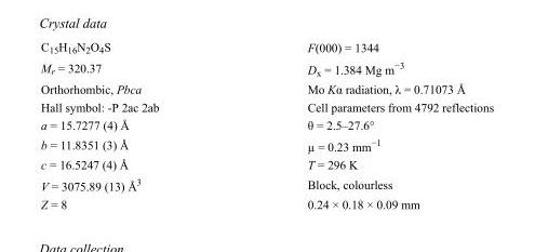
<table><tbody><tr><td>C<sub>15</sub>H<sub>16</sub>N<sub>2</sub>O<sub>4</sub>S</td><td>F(000) = 1344</td></tr><tr><td>M<sub>r</sub> = 320.37</td><td>D<sub>x</sub> = 1.384 Mg m<sup>−3</sup></td></tr><tr><td>Orthorhombic, Pbca</td><td>Mo Kα radiation, λ = 0.71073 Å</td></tr><tr><td>Hall symbol: -P 2ac 2ab</td><td>Cell parameters from 4792 reflections</td></tr><tr><td>a = 15.7277 (4) Å</td><td>θ = 2.5–27.6°</td></tr><tr><td>b = 11.8351 (3) Å</td><td>µ = 0.23 mm<sup>−1</sup></td></tr><tr><td>c = 16.5247 (4) Å</td><td>T = 296 K</td></tr><tr><td>V = 3075.89 (13) Å<sup>3</sup></td><td>Block, colourless</td></tr><tr><td>Z = 8</td><td>0.24 × 0.18 × 0.09 mm</td></tr></tbody></table>